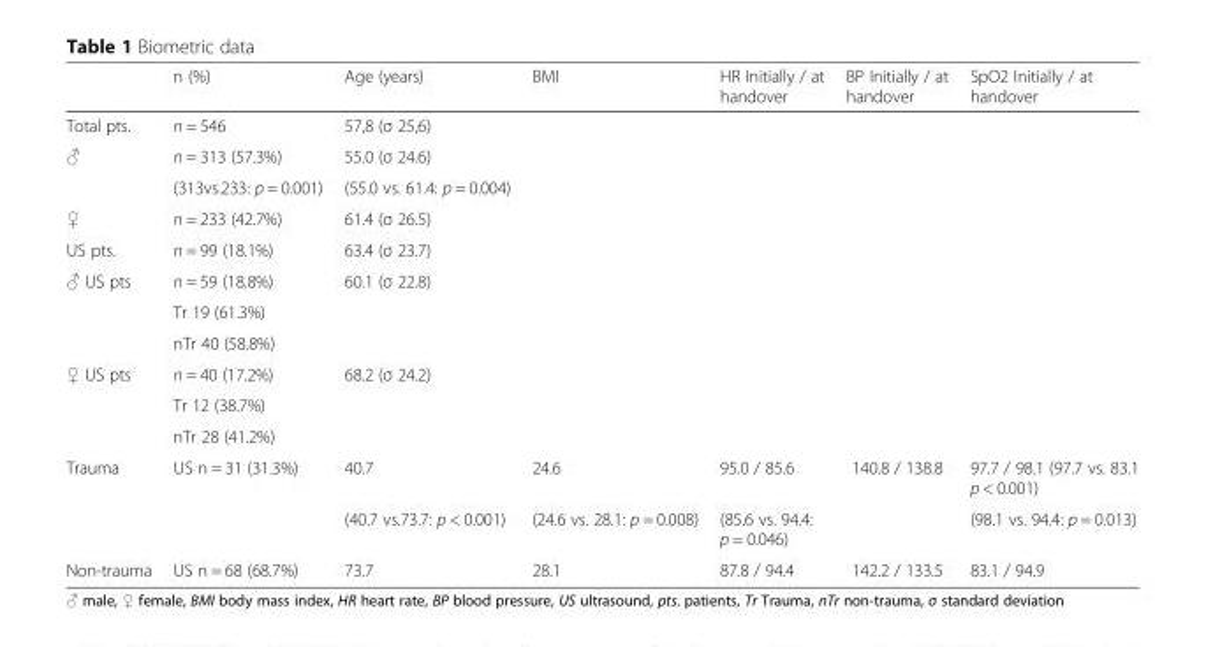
<table><thead><tr><td></td><td>n (%)</td><td>Age (years)</td><td>BMI</td><td>HR Initially / at handover</td><td>BP Initially / at handover</td><td>SpO2 Initially / at handover</td></tr></thead><tbody><tr><td>Total pts.</td><td>n = 546</td><td>57,8 (σ 25,6)</td><td></td><td></td><td></td><td></td></tr><tr><td rowspan="2">♂</td><td>n = 313 (57.3%)</td><td>55.0 (σ 24.6)</td><td rowspan="2"></td><td rowspan="2"></td><td rowspan="2"></td><td rowspan="2"></td></tr><tr><td>(313vs.233: p = 0.001)</td><td>(55.0 vs. 61.4: p = 0.004)</td></tr><tr><td>♀</td><td>n = 233 (42.7%)</td><td>61.4 (σ 26.5)</td><td></td><td></td><td></td><td></td></tr><tr><td>US pts.</td><td>n = 99 (18.1%)</td><td>63.4 (σ 23.7)</td><td></td><td></td><td></td><td></td></tr><tr><td rowspan="3">♂ US pts</td><td>n = 59 (18.8%)</td><td rowspan="3">60.1 (σ 22.8)</td><td rowspan="3"></td><td rowspan="3"></td><td rowspan="3"></td><td rowspan="3"></td></tr><tr><td>Tr 19 (61.3%)</td></tr><tr><td>nTr 40 (58.8%)</td></tr><tr><td rowspan="3">♀ US pts</td><td>n = 40 (17.2%)</td><td rowspan="3">68.2 (σ 24.2)</td><td rowspan="3"></td><td rowspan="3"></td><td rowspan="3"></td><td rowspan="3"></td></tr><tr><td>Tr 12 (38.7%)</td></tr><tr><td>nTr 28 (41.2%)</td></tr><tr><td rowspan="2">Trauma</td><td rowspan="2">US n = 31 (31.3%)</td><td>40.7</td><td>24.6</td><td>95.0 / 85.6</td><td rowspan="2">140.8 / 138.8</td><td>97.7 / 98.1 (97.7 vs. 83.1 p &lt; 0.001)</td></tr><tr><td>(40.7 vs.73.7: p &lt; 0.001)</td><td>(24.6 vs. 28.1: p = 0.008)</td><td>(85.6 vs. 94.4: p = 0.046)</td><td>(98.1 vs. 94.4: p = 0.013)</td></tr><tr><td>Non-trauma</td><td>US n = 68 (68.7%)</td><td>73.7</td><td>28.1</td><td>87.8 / 94.4</td><td>142.2 / 133.5</td><td>83.1 / 94.9</td></tr></tbody></table>